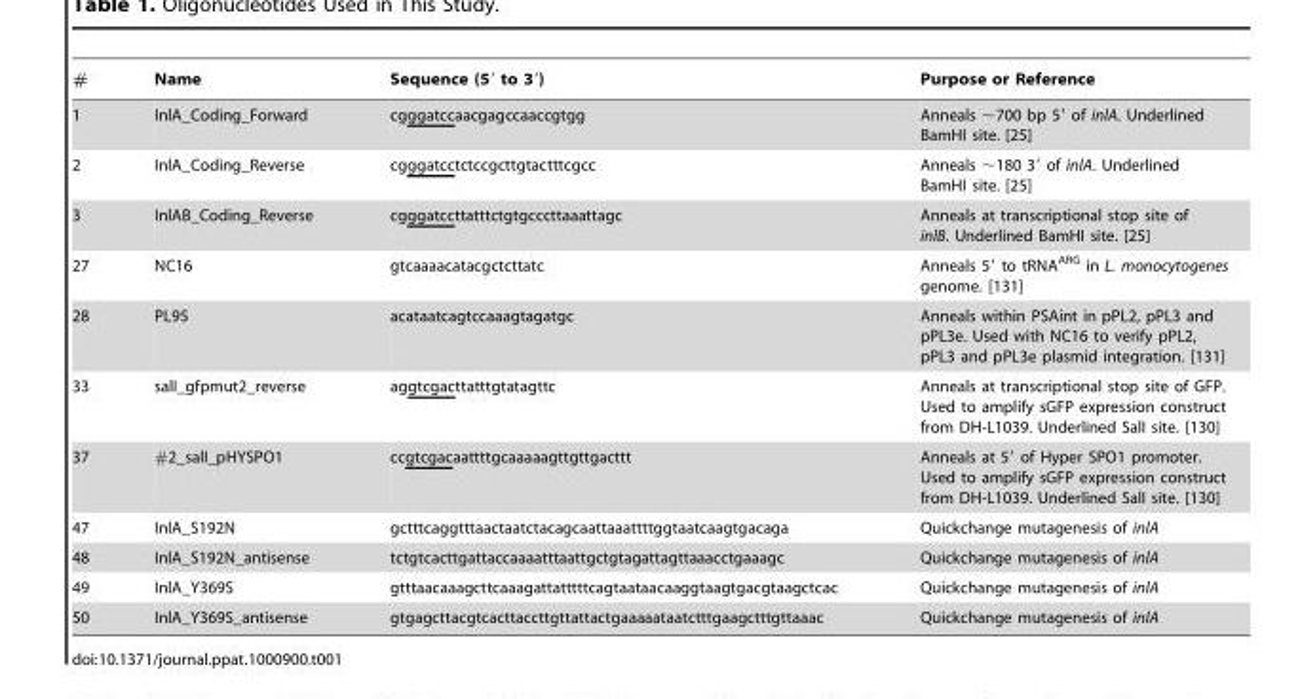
<table><thead><tr><td>#</td><td>Name</td><td>Sequence (5′ to 3′)</td><td>Purpose or Reference</td></tr></thead><tbody><tr><td>1</td><td>InlA_Coding_Forward</td><td>cgggatccaacgagccaaccgtgg</td><td>Anneals ∼700 bp 5′ of inlA. Underlined BamHI site. [25]</td></tr><tr><td>2</td><td>InlA_Coding_Reverse</td><td>cgggatcctctccgcttgtactttcgcc</td><td>Anneals ∼180 3′ of inlA. Underlined BamHI site. [25]</td></tr><tr><td>3</td><td>InlAB_Coding_Reverse</td><td>cgggatccttatttctgtgcccttaaattagc</td><td>Anneals at transcriptional stop site of inlB. Underlined BamHI site. [25]</td></tr><tr><td>27</td><td>NC16</td><td>gtcaaaacatacgctcttatc</td><td>Anneals 5′ to tRNA<sup>ARG</sup> in L. monocytogenes genome. [131]</td></tr><tr><td>28</td><td>PL95</td><td>acataatcagtccaaagtagatgc</td><td>Anneals within PSAint in pPL2, pPL3 and pPL3e. Used with NC16 to verify pPL2, pPL3 and pPL3e plasmid integration. [131]</td></tr><tr><td>33</td><td>salI_gfpmut2_reverse</td><td>aggtcgacttatttgtatagttc</td><td>Anneals at transcriptional stop site of GFP. Used to amplify sGFP expression construct from DH-L1039. Underlined SalI site. [130]</td></tr><tr><td>37</td><td>#2_salI_pHYSPO1</td><td>ccgtcgacaattttgcaaaaagttgttgacttt</td><td>Anneals at 5′ of Hyper SPO1 promoter. Used to amplify sGFP expression construct from DH-L1039. Underlined SalI site. [130]</td></tr><tr><td>47</td><td>InlA_S192N</td><td>gctttcaggtttaactaatctacagcaattaaattttggtaatcaagtgacaga</td><td>Quickchange mutagenesis of inlA</td></tr><tr><td>48</td><td>InlA_S192N_antisense</td><td>tctgtcacttgattaccaaaatttaattgctgtagattagttaaacctgaaagc</td><td>Quickchange mutagenesis of inlA</td></tr><tr><td>49</td><td>InlA_Y369S</td><td>gtttaacaaagcttcaaagattatttttcagtaataacaaggtaagtgacgtaagctcac</td><td>Quickchange mutagenesis of inlA</td></tr><tr><td>50</td><td>InlA_Y369S_antisense</td><td>gtgagcttacgtcacttaccttgttattactgaaaaataatctttgaagctttgttaaac</td><td>Quickchange mutagenesis of inlA</td></tr></tbody></table>